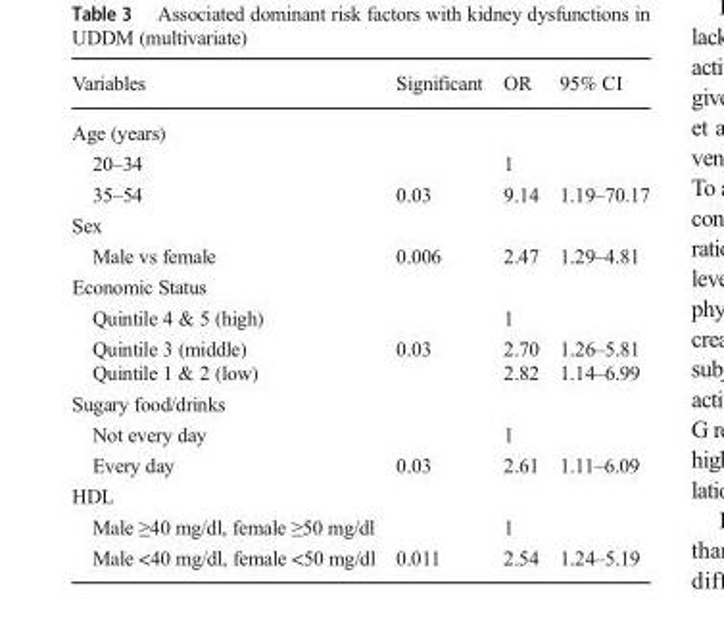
<table><thead><tr><td>Variables</td><td>Significant</td><td>OR</td><td>95% CI</td></tr></thead><tbody><tr><td colspan="4">Age (years)</td></tr><tr><td>20–34</td><td></td><td>1</td><td></td></tr><tr><td>35–54</td><td>0.03</td><td>9.14</td><td>1.19–70.17</td></tr><tr><td colspan="4">Sex</td></tr><tr><td>Male vs female</td><td>0.006</td><td>2.47</td><td>1.29–4.81</td></tr><tr><td colspan="4">Economic Status</td></tr><tr><td>Quintile 4 &amp; 5 (high)</td><td></td><td>1</td><td></td></tr><tr><td>Quintile 3 (middle) Quintile 1 &amp; 2 (low)</td><td>0.03</td><td>2.70 2.82</td><td>1.26–5.81 1.14–6.99</td></tr><tr><td colspan="4">Sugary food/drinks</td></tr><tr><td>Not every day</td><td></td><td>1</td><td></td></tr><tr><td>Every day</td><td>0.03</td><td>2.61</td><td>1.11–6.09</td></tr><tr><td colspan="4">HDL</td></tr><tr><td>Male ≥40 mg/dl, female ≥50 mg/dl</td><td></td><td>1</td><td></td></tr><tr><td>Male &lt;40 mg/dl, female &lt;50 mg/dl</td><td>0.011</td><td>2.54</td><td>1.24–5.19</td></tr></tbody></table>